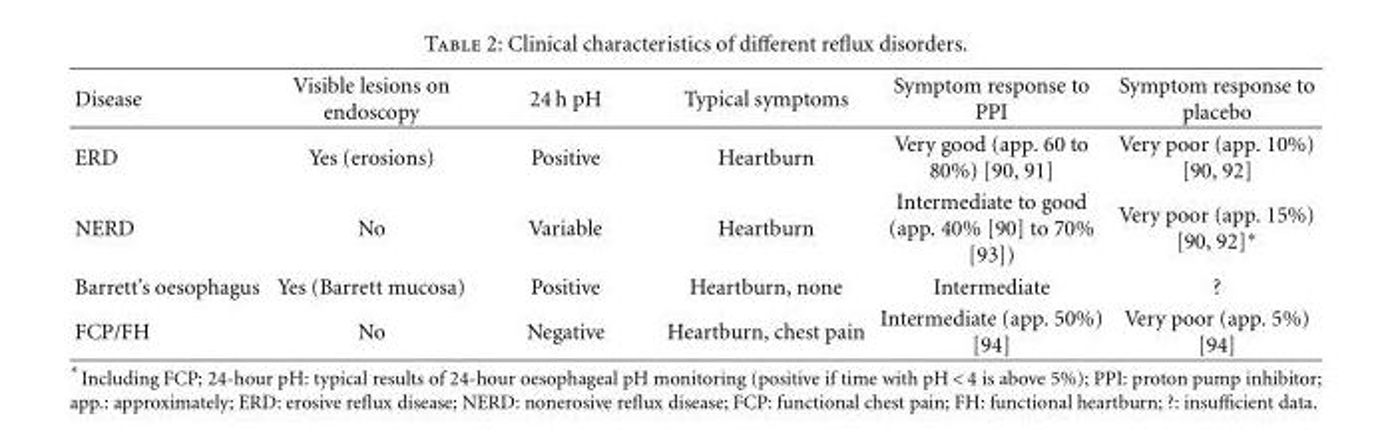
<table><thead><tr><td>Disease</td><td>Visible lesions on endoscopy</td><td>24 h pH</td><td>Typical symptoms</td><td>Symptom response to PPI</td><td>Symptom response to placebo</td></tr></thead><tbody><tr><td>ERD</td><td>Yes (erosions)</td><td>Positive</td><td>Heartburn</td><td>Very good (app. 60 to 80%) [90, 91]</td><td>Very poor (app. 10%) [90, 92]</td></tr><tr><td>NERD</td><td>No</td><td>Variable</td><td>Heartburn</td><td>Intermediate to good (app. 40% [90] to 70% [93])</td><td>Very poor (app. 15%) [90, 92]∗</td></tr><tr><td>Barrett’s oesophagus</td><td>Yes (Barrett mucosa)</td><td>Positive</td><td>Heartburn, none</td><td>Intermediate</td><td>?</td></tr><tr><td>FCP/FH</td><td>No</td><td>Negative</td><td>Heartburn, chest pain</td><td>Intermediate (app. 50%) [94]</td><td>Very poor (app. 5%) [94]</td></tr></tbody></table>